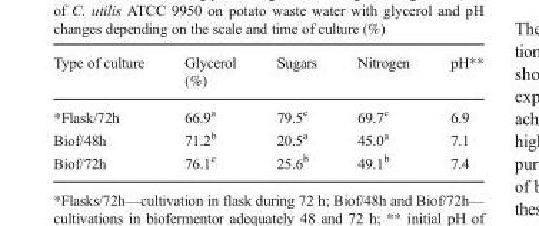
<table><thead><tr><td rowspan="2">Type of culture</td><td>Glycerol</td><td>Sugars</td><td>Nitrogen</td><td rowspan="2">pH**</td></tr><tr><td colspan="3">(%)</td></tr></thead><tbody><tr><td>*Flask/72h</td><td>66.9<sup>a</sup></td><td>79.5<sup>c</sup></td><td>69.7<sup>c</sup></td><td>6.9</td></tr><tr><td>Biof/48h</td><td>71.2<sup>b</sup></td><td>20.5<sup>a</sup></td><td>45.0<sup>a</sup></td><td>7.1</td></tr><tr><td>Biof/72h</td><td>76.1<sup>c</sup></td><td>25.6<sup>b</sup></td><td>49.1<sup>b</sup></td><td>7.4</td></tr></tbody></table>